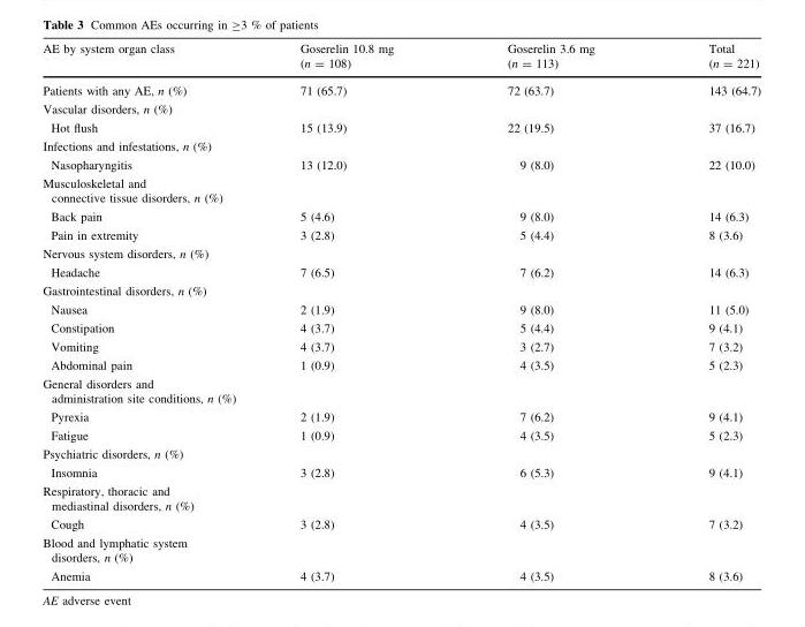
<table><thead><tr><td>AE by system organ class</td><td>Goserelin 10.8 mg (n = 108)</td><td>Goserelin 3.6 mg (n = 113)</td><td>Total (n = 221)</td></tr></thead><tbody><tr><td>Patients with any AE, n (%)</td><td>71 (65.7)</td><td>72 (63.7)</td><td>143 (64.7)</td></tr><tr><td colspan="4">Vascular disorders, n (%)</td></tr><tr><td>Hot flush</td><td>15 (13.9)</td><td>22 (19.5)</td><td>37 (16.7)</td></tr><tr><td colspan="4">Infections and infestations, n (%)</td></tr><tr><td>Nasopharyngitis</td><td>13 (12.0)</td><td>9 (8.0)</td><td>22 (10.0)</td></tr><tr><td colspan="4">Musculoskeletal and connective tissue disorders, n (%)</td></tr><tr><td>Back pain</td><td>5 (4.6)</td><td>9 (8.0)</td><td>14 (6.3)</td></tr><tr><td>Pain in extremity</td><td>3 (2.8)</td><td>5 (4.4)</td><td>8 (3.6)</td></tr><tr><td colspan="4">Nervous system disorders, n (%)</td></tr><tr><td>Headache</td><td>7 (6.5)</td><td>7 (6.2)</td><td>14 (6.3)</td></tr><tr><td colspan="4">Gastrointestinal disorders, n (%)</td></tr><tr><td>Nausea</td><td>2 (1.9)</td><td>9 (8.0)</td><td>11 (5.0)</td></tr><tr><td>Constipation</td><td>4 (3.7)</td><td>5 (4.4)</td><td>9 (4.1)</td></tr><tr><td>Vomiting</td><td>4 (3.7)</td><td>3 (2.7)</td><td>7 (3.2)</td></tr><tr><td>Abdominal pain</td><td>1 (0.9)</td><td>4 (3.5)</td><td>5 (2.3)</td></tr><tr><td colspan="4">General disorders and administration site conditions, n (%)</td></tr><tr><td>Pyrexia</td><td>2 (1.9)</td><td>7 (6.2)</td><td>9 (4.1)</td></tr><tr><td>Fatigue</td><td>1 (0.9)</td><td>4 (3.5)</td><td>5 (2.3)</td></tr><tr><td colspan="4">Psychiatric disorders, n (%)</td></tr><tr><td>Insomnia</td><td>3 (2.8)</td><td>6 (5.3)</td><td>9 (4.1)</td></tr><tr><td colspan="4">Respiratory, thoracic and mediastinal disorders, n (%)</td></tr><tr><td>Cough</td><td>3 (2.8)</td><td>4 (3.5)</td><td>7 (3.2)</td></tr><tr><td colspan="4">Blood and lymphatic system disorders, n (%)</td></tr><tr><td>Anemia</td><td>4 (3.7)</td><td>4 (3.5)</td><td>8 (3.6)</td></tr></tbody></table>